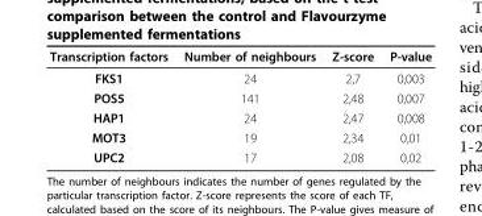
<table><thead><tr><td>Transcription factors</td><td>Number of neighbours</td><td>Z-score</td><td>P-value</td></tr></thead><tbody><tr><td>FKS1</td><td>24</td><td>2,7</td><td>0,003</td></tr><tr><td>POS5</td><td>141</td><td>2,48</td><td>0,007</td></tr><tr><td>HAP1</td><td>24</td><td>2,47</td><td>0,008</td></tr><tr><td>MOT3</td><td>19</td><td>2,34</td><td>0,01</td></tr><tr><td>UPC2</td><td>17</td><td>2,08</td><td>0,02</td></tr></tbody></table>